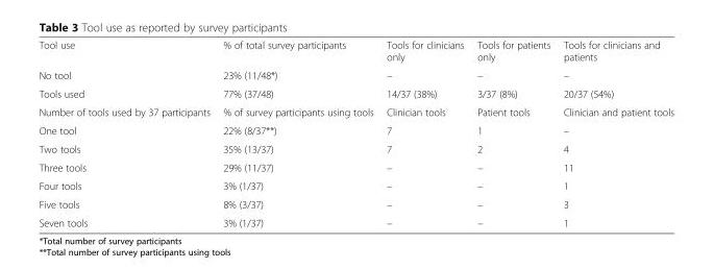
<table><tbody><tr><td>Tool use</td><td>% of total survey participants</td><td>Tools for clinicians only</td><td>Tools for patients only</td><td>Tools for clinicians and patients</td></tr><tr><td>No tool</td><td>23% (11/48*)</td><td>–</td><td>–</td><td>–</td></tr><tr><td>Tools used</td><td>77% (37/48)</td><td>14/37 (38%)</td><td>3/37 (8%)</td><td>20/37 (54%)</td></tr><tr><td>Number of tools used by 37 participants</td><td>% of survey participants using tools</td><td>Clinician tools</td><td>Patient tools</td><td>Clinician and patient tools</td></tr><tr><td>One tool</td><td>22% (8/37**)</td><td>7</td><td>1</td><td>–</td></tr><tr><td>Two tools</td><td>35% (13/37)</td><td>7</td><td>2</td><td>4</td></tr><tr><td>Three tools</td><td>29% (11/37)</td><td>–</td><td>–</td><td>11</td></tr><tr><td>Four tools</td><td>3% (1/37)</td><td>–</td><td>–</td><td>1</td></tr><tr><td>Five tools</td><td>8% (3/37)</td><td>–</td><td>–</td><td>3</td></tr><tr><td>Seven tools</td><td>3% (1/37)</td><td>–</td><td>–</td><td>1</td></tr></tbody></table>